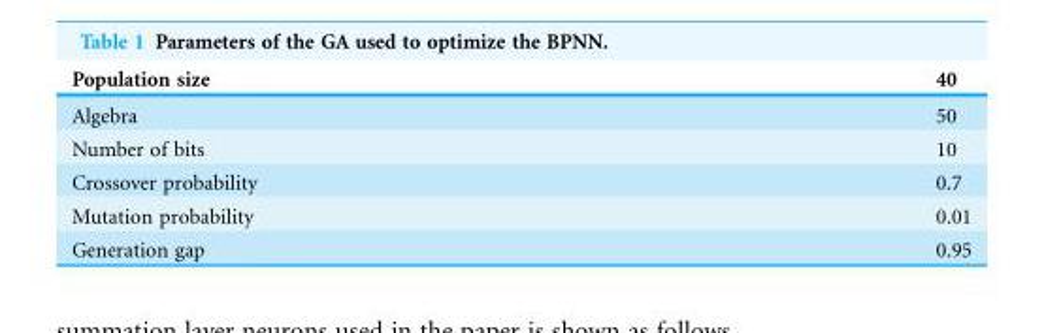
<table><thead><tr><td>Population size</td><td>40</td></tr></thead><tbody><tr><td>Algebra</td><td>50</td></tr><tr><td>Number of bits</td><td>10</td></tr><tr><td>Crossover probability</td><td>0.7</td></tr><tr><td>Mutation probability</td><td>0.01</td></tr><tr><td>Generation gap</td><td>0.95</td></tr></tbody></table>